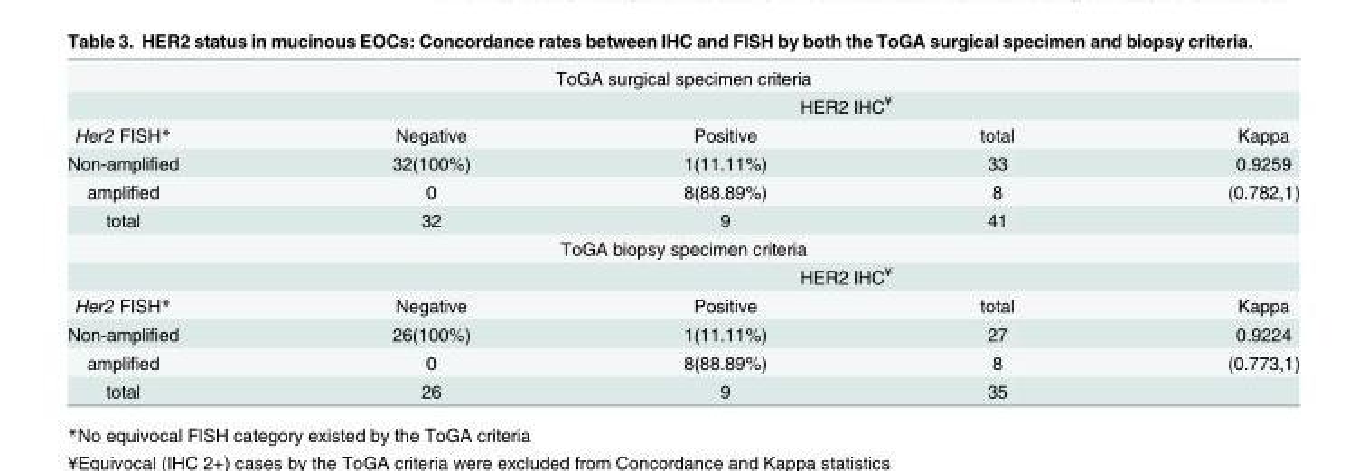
<table><tbody><tr><td colspan="5">ToGA surgical specimen criteria</td></tr><tr><td></td><td colspan="4">HER2 IHC<sup>¥</sup></td></tr><tr><td>Her2 FISH*</td><td>Negative</td><td>Positive</td><td>total</td><td>Kappa</td></tr><tr><td>Non-amplified</td><td>32(100%)</td><td>1(11.11%)</td><td>33</td><td>0.9259</td></tr><tr><td>amplified</td><td>0</td><td>8(88.89%)</td><td>8</td><td>(0.782,1)</td></tr><tr><td>total</td><td>32</td><td>9</td><td>41</td><td></td></tr><tr><td colspan="5">ToGA biopsy specimen criteria</td></tr><tr><td></td><td colspan="4">HER2 IHC<sup>¥</sup></td></tr><tr><td>Her2 FISH*</td><td>Negative</td><td>Positive</td><td>total</td><td>Kappa</td></tr><tr><td>Non-amplified</td><td>26(100%)</td><td>1(11.11%)</td><td>27</td><td>0.9224</td></tr><tr><td>amplified</td><td>0</td><td>8(88.89%)</td><td>8</td><td>(0.773,1)</td></tr><tr><td>total</td><td>26</td><td>9</td><td>35</td><td></td></tr></tbody></table>